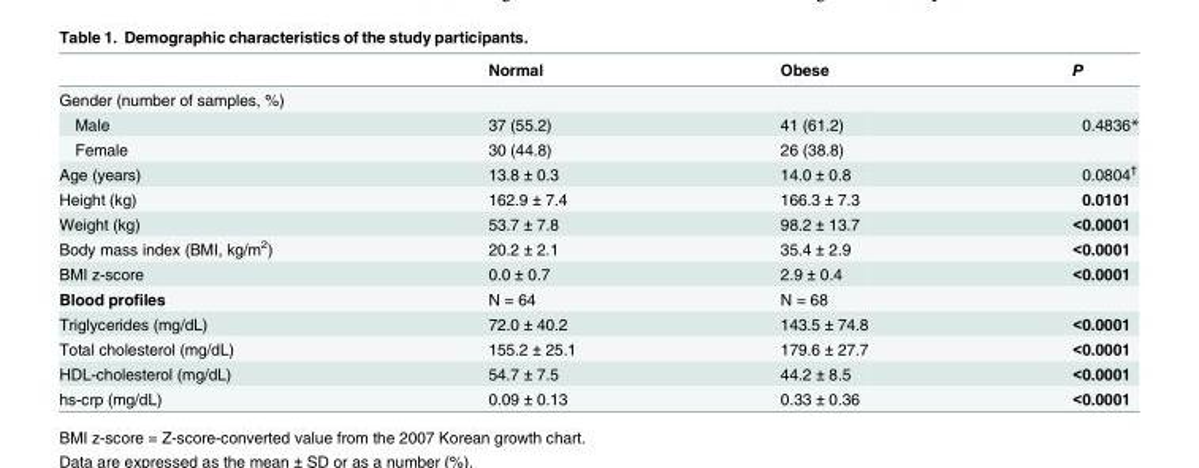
<table><thead><tr><td></td><td>Normal</td><td>Obese</td><td>P</td></tr></thead><tbody><tr><td colspan="4">Gender (number of samples, %)</td></tr><tr><td>Male</td><td>37 (55.2)</td><td>41 (61.2)</td><td>0.4836*</td></tr><tr><td>Female</td><td>30 (44.8)</td><td>26 (38.8)</td><td></td></tr><tr><td>Age (years)</td><td>13.8 ± 0.3</td><td>14.0 ± 0.8</td><td>0.0804<sup>†</sup></td></tr><tr><td>Height (kg)</td><td>162.9 ± 7.4</td><td>166.3 ± 7.3</td><td>0.0101</td></tr><tr><td>Weight (kg)</td><td>53.7 ± 7.8</td><td>98.2 ± 13.7</td><td>&lt;0.0001</td></tr><tr><td>Body mass index (BMI, kg/m<sup>2</sup>)</td><td>20.2 ± 2.1</td><td>35.4 ± 2.9</td><td>&lt;0.0001</td></tr><tr><td>BMI z-score</td><td>0.0 ± 0.7</td><td>2.9 ± 0.4</td><td>&lt;0.0001</td></tr><tr><td>Blood profiles</td><td>N = 64</td><td>N = 68</td><td></td></tr><tr><td>Triglycerides (mg/dL)</td><td>72.0 ± 40.2</td><td>143.5 ± 74.8</td><td>&lt;0.0001</td></tr><tr><td>Total cholesterol (mg/dL)</td><td>155.2 ± 25.1</td><td>179.6 ± 27.7</td><td>&lt;0.0001</td></tr><tr><td>HDL-cholesterol (mg/dL)</td><td>54.7 ± 7.5</td><td>44.2 ± 8.5</td><td>&lt;0.0001</td></tr><tr><td>hs-crp (mg/dL)</td><td>0.09 ± 0.13</td><td>0.33 ± 0.36</td><td>&lt;0.0001</td></tr></tbody></table>